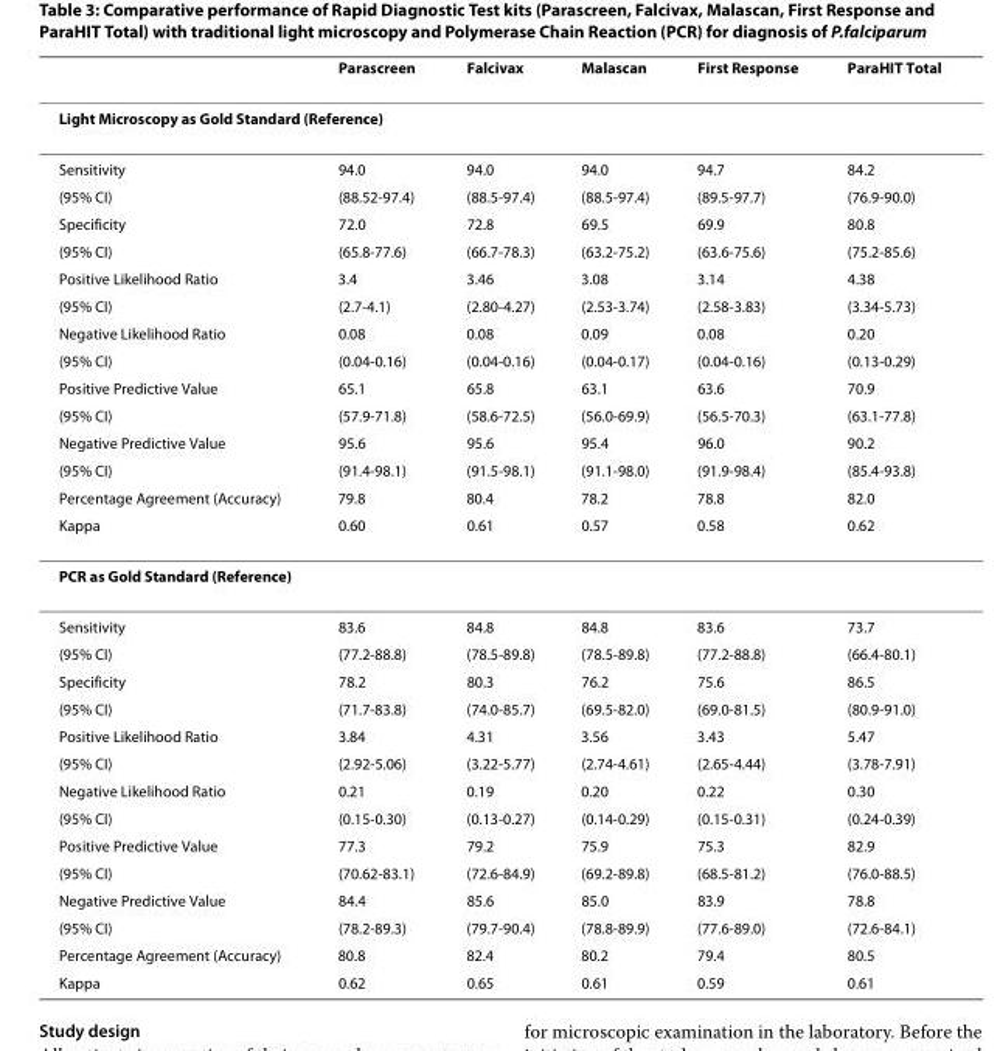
<table><thead><tr><td></td><td>Parascreen</td><td>Falcivax</td><td>Malascan</td><td>First Response</td><td>ParaHIT Total</td></tr></thead><tbody><tr><td colspan="6">Light Microscopy as Gold Standard (Reference)</td></tr><tr><td>Sensitivity</td><td>94.0</td><td>94.0</td><td>94.0</td><td>94.7</td><td>84.2</td></tr><tr><td>(95% CI)</td><td>(88.52-97.4)</td><td>(88.5-97.4)</td><td>(88.5-97.4)</td><td>(89.5-97.7)</td><td>(76.9-90.0)</td></tr><tr><td>Specificity</td><td>72.0</td><td>72.8</td><td>69.5</td><td>69.9</td><td>80.8</td></tr><tr><td>(95% CI)</td><td>(65.8-77.6)</td><td>(66.7-78.3)</td><td>(63.2-75.2)</td><td>(63.6-75.6)</td><td>(75.2-85.6)</td></tr><tr><td>Positive Likelihood Ratio</td><td>3.4</td><td>3.46</td><td>3.08</td><td>3.14</td><td>4.38</td></tr><tr><td>(95% CI)</td><td>(2.7-4.1)</td><td>(2.80-4.27)</td><td>(2.53-3.74)</td><td>(2.58-3.83)</td><td>(3.34-5.73)</td></tr><tr><td>Negative Likelihood Ratio</td><td>0.08</td><td>0.08</td><td>0.09</td><td>0.08</td><td>0.20</td></tr><tr><td>(95% CI)</td><td>(0.04-0.16)</td><td>(0.04-0.16)</td><td>(0.04-0.17)</td><td>(0.04-0.16)</td><td>(0.13-0.29)</td></tr><tr><td>Positive Predictive Value</td><td>65.1</td><td>65.8</td><td>63.1</td><td>63.6</td><td>70.9</td></tr><tr><td>(95% CI)</td><td>(57.9-71.8)</td><td>(58.6-72.5)</td><td>(56.0-69.9)</td><td>(56.5-70.3)</td><td>(63.1-77.8)</td></tr><tr><td>Negative Predictive Value</td><td>95.6</td><td>95.6</td><td>95.4</td><td>96.0</td><td>90.2</td></tr><tr><td>(95% CI)</td><td>(91.4-98.1)</td><td>(91.5-98.1)</td><td>(91.1-98.0)</td><td>(91.9-98.4)</td><td>(85.4-93.8)</td></tr><tr><td>Percentage Agreement (Accuracy)</td><td>79.8</td><td>80.4</td><td>78.2</td><td>78.8</td><td>82.0</td></tr><tr><td>Kappa</td><td>0.60</td><td>0.61</td><td>0.57</td><td>0.58</td><td>0.62</td></tr><tr><td colspan="6">PCR as Gold Standard (Reference)</td></tr><tr><td>Sensitivity</td><td>83.6</td><td>84.8</td><td>84.8</td><td>83.6</td><td>73.7</td></tr><tr><td>(95% CI)</td><td>(77.2-88.8)</td><td>(78.5-89.8)</td><td>(78.5-89.8)</td><td>(77.2-88.8)</td><td>(66.4-80.1)</td></tr><tr><td>Specificity</td><td>78.2</td><td>80.3</td><td>76.2</td><td>75.6</td><td>86.5</td></tr><tr><td>(95% CI)</td><td>(71.7-83.8)</td><td>(74.0-85.7)</td><td>(69.5-82.0)</td><td>(69.0-81.5)</td><td>(80.9-91.0)</td></tr><tr><td>Positive Likelihood Ratio</td><td>3.84</td><td>4.31</td><td>3.56</td><td>3.43</td><td>5.47</td></tr><tr><td>(95% CI)</td><td>(2.92-5.06)</td><td>(3.22-5.77)</td><td>(2.74-4.61)</td><td>(2.65-4.44)</td><td>(3.78-7.91)</td></tr><tr><td>Negative Likelihood Ratio</td><td>0.21</td><td>0.19</td><td>0.20</td><td>0.22</td><td>0.30</td></tr><tr><td>(95% CI)</td><td>(0.15-0.30)</td><td>(0.13-0.27)</td><td>(0.14-0.29)</td><td>(0.15-0.31)</td><td>(0.24-0.39)</td></tr><tr><td>Positive Predictive Value</td><td>77.3</td><td>79.2</td><td>75.9</td><td>75.3</td><td>82.9</td></tr><tr><td>(95% CI)</td><td>(70.62-83.1)</td><td>(72.6-84.9)</td><td>(69.2-89.8)</td><td>(68.5-81.2)</td><td>(76.0-88.5)</td></tr><tr><td>Negative Predictive Value</td><td>84.4</td><td>85.6</td><td>85.0</td><td>83.9</td><td>78.8</td></tr><tr><td>(95% CI)</td><td>(78.2-89.3)</td><td>(79.7-90.4)</td><td>(78.8-89.9)</td><td>(77.6-89.0)</td><td>(72.6-84.1)</td></tr><tr><td>Percentage Agreement (Accuracy)</td><td>80.8</td><td>82.4</td><td>80.2</td><td>79.4</td><td>80.5</td></tr><tr><td>Kappa</td><td>0.62</td><td>0.65</td><td>0.61</td><td>0.59</td><td>0.61</td></tr></tbody></table>